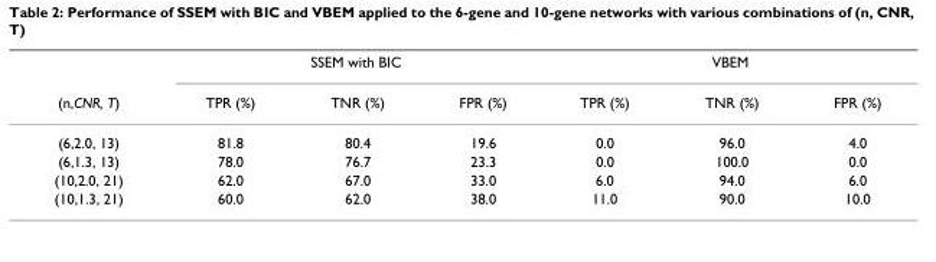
<table><thead><tr><td rowspan="2">(n,CNR, T)</td><td colspan="3">SSEM with BIC</td><td colspan="3">VBEM</td></tr><tr><td>TPR (%)</td><td>TNR (%)</td><td>FPR (%)</td><td>TPR (%)</td><td>TNR (%)</td><td>FPR (%)</td></tr></thead><tbody><tr><td>(6,2.0, 13)</td><td>81.8</td><td>80.4</td><td>19.6</td><td>0.0</td><td>96.0</td><td>4.0</td></tr><tr><td>(6,1.3, 13)</td><td>78.0</td><td>76.7</td><td>23.3</td><td>0.0</td><td>100.0</td><td>0.0</td></tr><tr><td>(10,2.0, 21)</td><td>62.0</td><td>67.0</td><td>33.0</td><td>6.0</td><td>94.0</td><td>6.0</td></tr><tr><td>(10,1.3, 21)</td><td>60.0</td><td>62.0</td><td>38.0</td><td>11.0</td><td>90.0</td><td>10.0</td></tr></tbody></table>